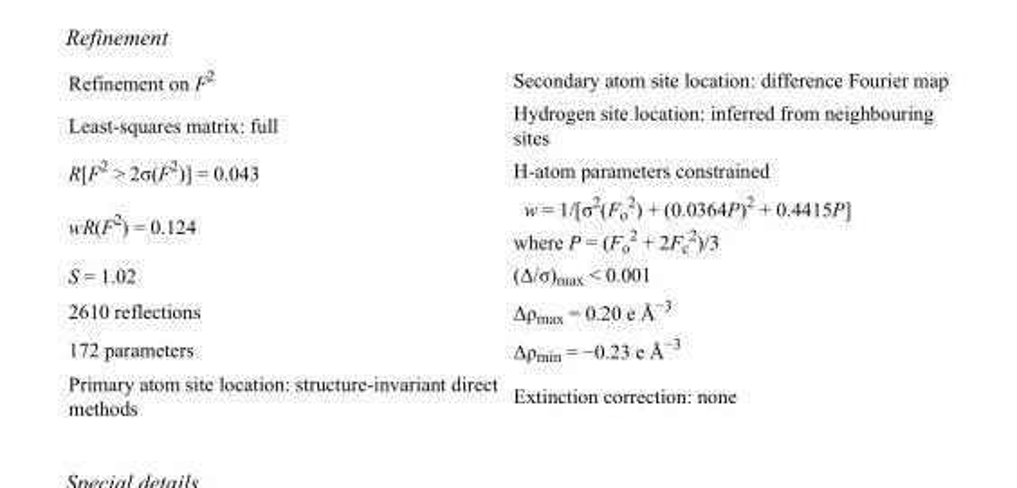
<table><tbody><tr><td>Refinement on F<sup>2</sup></td><td>Secondary atom site location: difference Fourier map</td></tr><tr><td>Least-squares matrix: full</td><td>Hydrogen site location: inferred from neighbouring sites</td></tr><tr><td>R[F<sup>2</sup> &gt; 2σ(F<sup>2</sup>)] = 0.043</td><td>H-atom parameters constrained</td></tr><tr><td>wR(F<sup>2</sup>) = 0.124</td><td>w = 1/[σ<sup>2</sup>(F<sub>o</sub> <sup>2</sup>) + (0.0364P)<sup>2</sup> + 0.4415P] where P = (F<sub>o</sub> <sup>2</sup> + 2F<sub>c</sub> <sup>2</sup>)/3</td></tr><tr><td>S = 1.02</td><td>(Δ/σ)<sub>max</sub> &lt; 0.001</td></tr><tr><td>2610 reflections</td><td>Δρ<sub>max</sub> = 0.20 e Å<sup>−3</sup></td></tr><tr><td>172 parameters</td><td>Δρ<sub>min</sub> = −0.23 e Å<sup>−3</sup></td></tr><tr><td>Primary atom site location: structure-invariant direct methods</td><td>Extinction correction: none</td></tr></tbody></table>